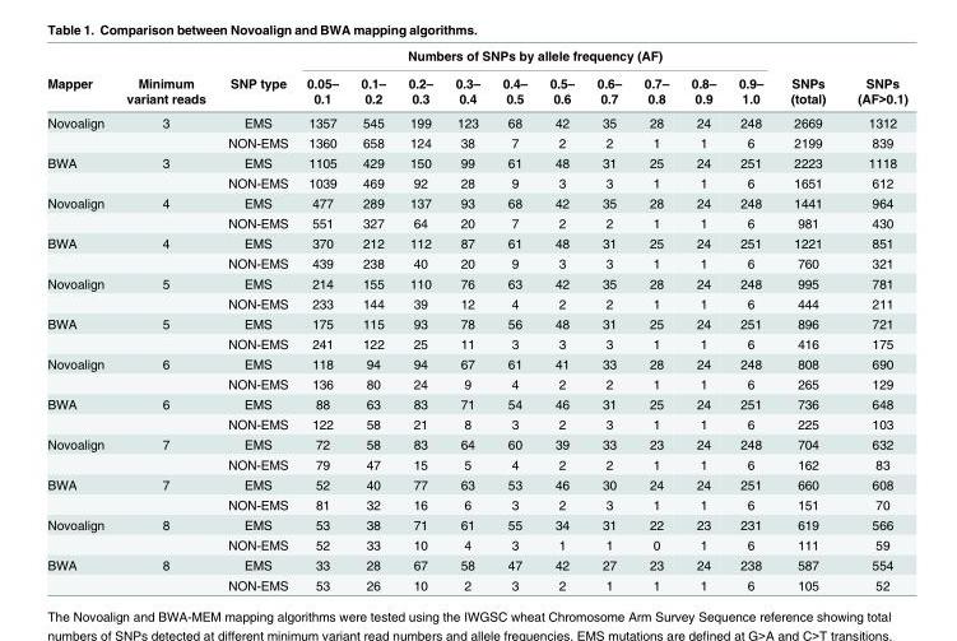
<table><thead><tr><td rowspan="2">Mapper</td><td rowspan="2">Minimum variant reads</td><td rowspan="2">SNP type</td><td colspan="10">Numbers of SNPs by allele frequency (AF)</td><td rowspan="2">SNPs (total)</td><td rowspan="2">SNPs (AF&gt;0.1)</td></tr><tr><td>0.05– 0.1</td><td>0.1– 0.2</td><td>0.2– 0.3</td><td>0.3– 0.4</td><td>0.4– 0.5</td><td>0.5– 0.6</td><td>0.6– 0.7</td><td>0.7– 0.8</td><td>0.8– 0.9</td><td>0.9– 1.0</td></tr></thead><tbody><tr><td rowspan="2">Novoalign</td><td>3</td><td>EMS</td><td>1357</td><td>545</td><td>199</td><td>123</td><td>68</td><td>42</td><td>35</td><td>28</td><td>24</td><td>248</td><td>2669</td><td>1312</td></tr><tr><td></td><td>NON-EMS</td><td>1360</td><td>658</td><td>124</td><td>38</td><td>7</td><td>2</td><td>2</td><td>1</td><td>1</td><td>6</td><td>2199</td><td>839</td></tr><tr><td rowspan="2">BWA</td><td>3</td><td>EMS</td><td>1105</td><td>429</td><td>150</td><td>99</td><td>61</td><td>48</td><td>31</td><td>25</td><td>24</td><td>251</td><td>2223</td><td>1118</td></tr><tr><td></td><td>NON-EMS</td><td>1039</td><td>469</td><td>92</td><td>28</td><td>9</td><td>3</td><td>3</td><td>1</td><td>1</td><td>6</td><td>1651</td><td>612</td></tr><tr><td rowspan="2">Novoalign</td><td>4</td><td>EMS</td><td>477</td><td>289</td><td>137</td><td>93</td><td>68</td><td>42</td><td>35</td><td>28</td><td>24</td><td>248</td><td>1441</td><td>964</td></tr><tr><td></td><td>NON-EMS</td><td>551</td><td>327</td><td>64</td><td>20</td><td>7</td><td>2</td><td>2</td><td>1</td><td>1</td><td>6</td><td>981</td><td>430</td></tr><tr><td rowspan="2">BWA</td><td>4</td><td>EMS</td><td>370</td><td>212</td><td>112</td><td>87</td><td>61</td><td>48</td><td>31</td><td>25</td><td>24</td><td>251</td><td>1221</td><td>851</td></tr><tr><td></td><td>NON-EMS</td><td>439</td><td>238</td><td>40</td><td>20</td><td>9</td><td>3</td><td>3</td><td>1</td><td>1</td><td>6</td><td>760</td><td>321</td></tr><tr><td rowspan="2">Novoalign</td><td>5</td><td>EMS</td><td>214</td><td>155</td><td>110</td><td>76</td><td>63</td><td>42</td><td>35</td><td>28</td><td>24</td><td>248</td><td>995</td><td>781</td></tr><tr><td></td><td>NON-EMS</td><td>233</td><td>144</td><td>39</td><td>12</td><td>4</td><td>2</td><td>2</td><td>1</td><td>1</td><td>6</td><td>444</td><td>211</td></tr><tr><td rowspan="2">BWA</td><td>5</td><td>EMS</td><td>175</td><td>115</td><td>93</td><td>78</td><td>56</td><td>48</td><td>31</td><td>25</td><td>24</td><td>251</td><td>896</td><td>721</td></tr><tr><td></td><td>NON-EMS</td><td>241</td><td>122</td><td>25</td><td>11</td><td>3</td><td>3</td><td>3</td><td>1</td><td>1</td><td>6</td><td>416</td><td>175</td></tr><tr><td rowspan="2">Novoalign</td><td>6</td><td>EMS</td><td>118</td><td>94</td><td>94</td><td>67</td><td>61</td><td>41</td><td>33</td><td>28</td><td>24</td><td>248</td><td>808</td><td>690</td></tr><tr><td></td><td>NON-EMS</td><td>136</td><td>80</td><td>24</td><td>9</td><td>4</td><td>2</td><td>2</td><td>1</td><td>1</td><td>6</td><td>265</td><td>129</td></tr><tr><td rowspan="2">BWA</td><td>6</td><td>EMS</td><td>88</td><td>63</td><td>83</td><td>71</td><td>54</td><td>46</td><td>31</td><td>25</td><td>24</td><td>251</td><td>736</td><td>648</td></tr><tr><td></td><td>NON-EMS</td><td>122</td><td>58</td><td>21</td><td>8</td><td>3</td><td>2</td><td>3</td><td>1</td><td>1</td><td>6</td><td>225</td><td>103</td></tr><tr><td rowspan="2">Novoalign</td><td>7</td><td>EMS</td><td>72</td><td>58</td><td>83</td><td>64</td><td>60</td><td>39</td><td>33</td><td>23</td><td>24</td><td>248</td><td>704</td><td>632</td></tr><tr><td></td><td>NON-EMS</td><td>79</td><td>47</td><td>15</td><td>5</td><td>4</td><td>2</td><td>2</td><td>1</td><td>1</td><td>6</td><td>162</td><td>83</td></tr><tr><td rowspan="2">BWA</td><td>7</td><td>EMS</td><td>52</td><td>40</td><td>77</td><td>63</td><td>53</td><td>46</td><td>30</td><td>24</td><td>24</td><td>251</td><td>660</td><td>608</td></tr><tr><td></td><td>NON-EMS</td><td>81</td><td>32</td><td>16</td><td>6</td><td>3</td><td>2</td><td>3</td><td>1</td><td>1</td><td>6</td><td>151</td><td>70</td></tr><tr><td rowspan="2">Novoalign</td><td>8</td><td>EMS</td><td>53</td><td>38</td><td>71</td><td>61</td><td>55</td><td>34</td><td>31</td><td>22</td><td>23</td><td>231</td><td>619</td><td>566</td></tr><tr><td></td><td>NON-EMS</td><td>52</td><td>33</td><td>10</td><td>4</td><td>3</td><td>1</td><td>1</td><td>0</td><td>1</td><td>6</td><td>111</td><td>59</td></tr><tr><td rowspan="2">BWA</td><td>8</td><td>EMS</td><td>33</td><td>28</td><td>67</td><td>58</td><td>47</td><td>42</td><td>27</td><td>23</td><td>24</td><td>238</td><td>587</td><td>554</td></tr><tr><td></td><td>NON-EMS</td><td>53</td><td>26</td><td>10</td><td>2</td><td>3</td><td>2</td><td>1</td><td>1</td><td>1</td><td>6</td><td>105</td><td>52</td></tr></tbody></table>